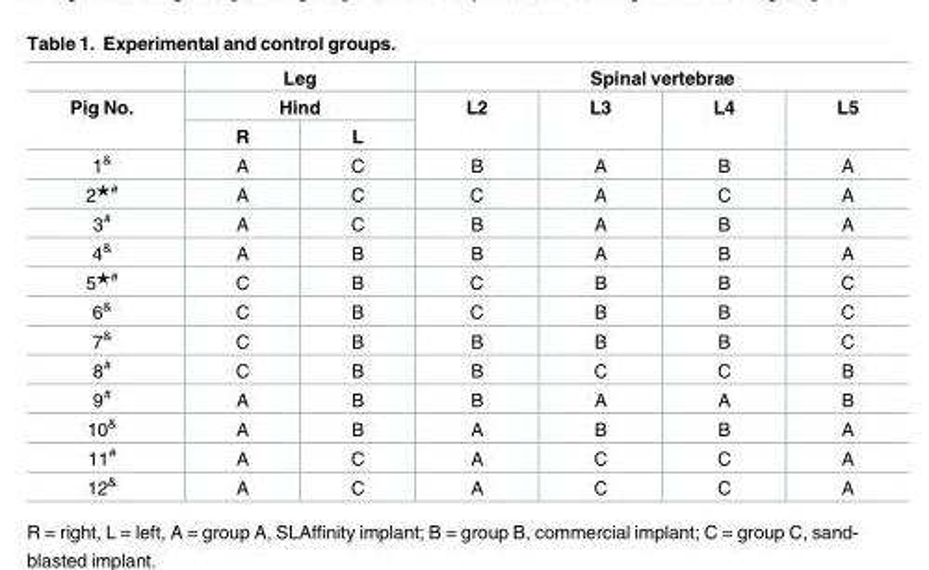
<table><thead><tr><td rowspan="3">Pig No.</td><td rowspan="2" colspan="2">Leg Hind</td><td colspan="4">Spinal vertebrae</td></tr><tr><td rowspan="2">L2</td><td rowspan="2">L3</td><td rowspan="2">L4</td><td rowspan="2">L5</td></tr><tr><td>R</td><td>L</td></tr></thead><tbody><tr><td>1<sup>&amp;</sup></td><td>A</td><td>C</td><td>B</td><td>A</td><td>B</td><td>A</td></tr><tr><td>2<sup>★#</sup></td><td>A</td><td>C</td><td>C</td><td>A</td><td>C</td><td>A</td></tr><tr><td>3<sup>#</sup></td><td>A</td><td>C</td><td>B</td><td>A</td><td>B</td><td>A</td></tr><tr><td>4<sup>&amp;</sup></td><td>A</td><td>B</td><td>B</td><td>A</td><td>B</td><td>A</td></tr><tr><td>5<sup>★#</sup></td><td>C</td><td>B</td><td>C</td><td>B</td><td>B</td><td>C</td></tr><tr><td>6<sup>&amp;</sup></td><td>C</td><td>B</td><td>C</td><td>B</td><td>B</td><td>C</td></tr><tr><td>7<sup>&amp;</sup></td><td>C</td><td>B</td><td>B</td><td>B</td><td>B</td><td>C</td></tr><tr><td>8<sup>#</sup></td><td>C</td><td>B</td><td>B</td><td>C</td><td>C</td><td>B</td></tr><tr><td>9<sup>#</sup></td><td>A</td><td>B</td><td>B</td><td>A</td><td>A</td><td>B</td></tr><tr><td>10<sup>&amp;</sup></td><td>A</td><td>B</td><td>A</td><td>B</td><td>B</td><td>A</td></tr><tr><td>11<sup>#</sup></td><td>A</td><td>C</td><td>A</td><td>C</td><td>C</td><td>A</td></tr><tr><td>12<sup>&amp;</sup></td><td>A</td><td>C</td><td>A</td><td>C</td><td>C</td><td>A</td></tr></tbody></table>